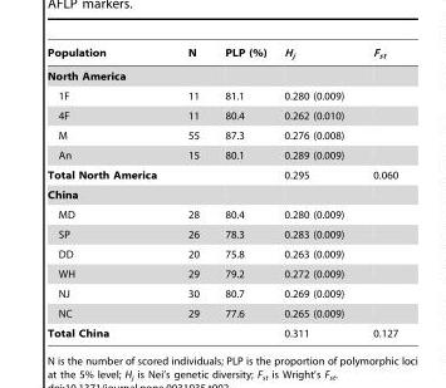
<table><thead><tr><td>Population</td><td>N</td><td>PLP (%)</td><td>H<sub>j</sub></td><td>F<sub>st</sub></td></tr></thead><tbody><tr><td colspan="5">North America</td></tr><tr><td>1F</td><td>11</td><td>81.1</td><td>0.280 (0.009)</td><td></td></tr><tr><td>4F</td><td>11</td><td>80.4</td><td>0.262 (0.010)</td><td></td></tr><tr><td>M</td><td>55</td><td>87.3</td><td>0.276 (0.008)</td><td></td></tr><tr><td>An</td><td>15</td><td>80.1</td><td>0.289 (0.009)</td><td></td></tr><tr><td>Total North America</td><td></td><td></td><td>0.295</td><td>0.060</td></tr><tr><td colspan="5">China</td></tr><tr><td>MD</td><td>28</td><td>80.4</td><td>0.280 (0.009)</td><td></td></tr><tr><td>SP</td><td>26</td><td>78.3</td><td>0.283 (0.009)</td><td></td></tr><tr><td>DD</td><td>20</td><td>75.8</td><td>0.263 (0.009)</td><td></td></tr><tr><td>WH</td><td>29</td><td>79.2</td><td>0.272 (0.009)</td><td></td></tr><tr><td>NJ</td><td>30</td><td>80.7</td><td>0.269 (0.009)</td><td></td></tr><tr><td>NC</td><td>29</td><td>77.6</td><td>0.265 (0.009)</td><td></td></tr><tr><td>Total China</td><td></td><td></td><td>0.311</td><td>0.127</td></tr></tbody></table>